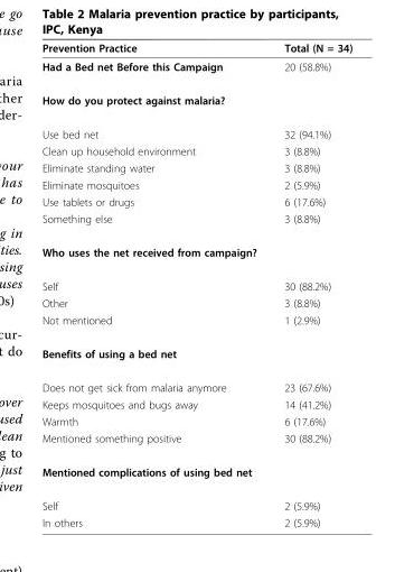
<table><thead><tr><td>Prevention Practice</td><td>Total (N = 34)</td></tr></thead><tbody><tr><td>Had a Bed net Before this Campaign</td><td>20 (58.8%)</td></tr><tr><td colspan="2">How do you protect against malaria?</td></tr><tr><td>Use bed net</td><td>32 (94.1%)</td></tr><tr><td>Clean up household environment</td><td>3 (8.8%)</td></tr><tr><td>Eliminate standing water</td><td>3 (8.8%)</td></tr><tr><td>Eliminate mosquitoes</td><td>2 (5.9%)</td></tr><tr><td>Use tablets or drugs</td><td>6 (17.6%)</td></tr><tr><td>Something else</td><td>3 (8.8%)</td></tr><tr><td colspan="2">Who uses the net received from campaign?</td></tr><tr><td>Self</td><td>30 (88.2%)</td></tr><tr><td>Other</td><td>3 (8.8%)</td></tr><tr><td>Not mentioned</td><td>1 (2.9%)</td></tr><tr><td colspan="2">Benefits of using a bed net</td></tr><tr><td>Does not get sick from malaria anymore</td><td>23 (67.6%)</td></tr><tr><td>Keeps mosquitoes and bugs away</td><td>14 (41.2%)</td></tr><tr><td>Warmth</td><td>6 (17.6%)</td></tr><tr><td>Mentioned something positive</td><td>30 (88.2%)</td></tr><tr><td colspan="2">Mentioned complications of using bed net</td></tr><tr><td>Self</td><td>2 (5.9%)</td></tr><tr><td>In others</td><td>2 (5.9%)</td></tr></tbody></table>